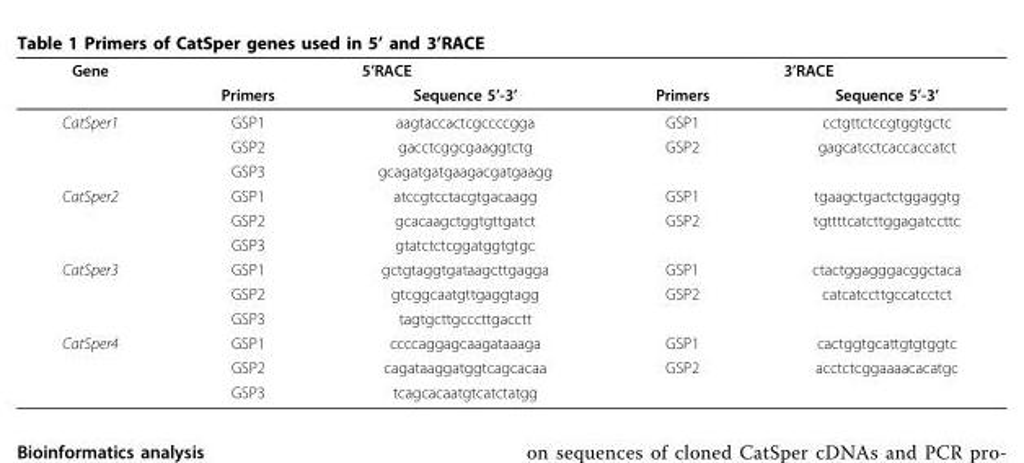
<table><thead><tr><td rowspan="2">Gene</td><td colspan="2">5’RACE</td><td colspan="2">3’RACE</td></tr><tr><td>Primers</td><td>Sequence 5’-3’</td><td>Primers</td><td>Sequence 5’-3’</td></tr></thead><tbody><tr><td rowspan="3">CatSper1</td><td>GSP1</td><td>aagtaccactcgccccgga</td><td>GSP1</td><td>cctgttctccgtggtgctc</td></tr><tr><td>GSP2</td><td>gacctcggcgaaggtctg</td><td>GSP2</td><td>gagcatcctcaccaccatct</td></tr><tr><td>GSP3</td><td>gcagatgatgaagacgatgaagg</td><td></td><td></td></tr><tr><td rowspan="3">CatSper2</td><td>GSP1</td><td>atccgtcctacgtgacaagg</td><td>GSP1</td><td>tgaagctgactctggaggtg</td></tr><tr><td>GSP2</td><td>gcacaagctggtgttgatct</td><td>GSP2</td><td>tgttttcatcttggagatccttc</td></tr><tr><td>GSP3</td><td>gtatctctcggatggtgtgc</td><td></td><td></td></tr><tr><td rowspan="3">CatSper3</td><td>GSP1</td><td>gctgtaggtgataagcttgagga</td><td>GSP1</td><td>ctactggagggacggctaca</td></tr><tr><td>GSP2</td><td>gtcggcaatgttgaggtagg</td><td>GSP2</td><td>catcatccttgccatcctct</td></tr><tr><td>GSP3</td><td>tagtgcttgcccttgacctt</td><td></td><td></td></tr><tr><td rowspan="3">CatSper4</td><td>GSP1</td><td>ccccaggagcaagataaaga</td><td>GSP1</td><td>cactggtgcattgtgtggtc</td></tr><tr><td>GSP2</td><td>cagataaggatggtcagcacaa</td><td>GSP2</td><td>acctctcggaaaacacatgc</td></tr><tr><td>GSP3</td><td>tcagcacaatgtcatctatgg</td><td></td><td></td></tr></tbody></table>